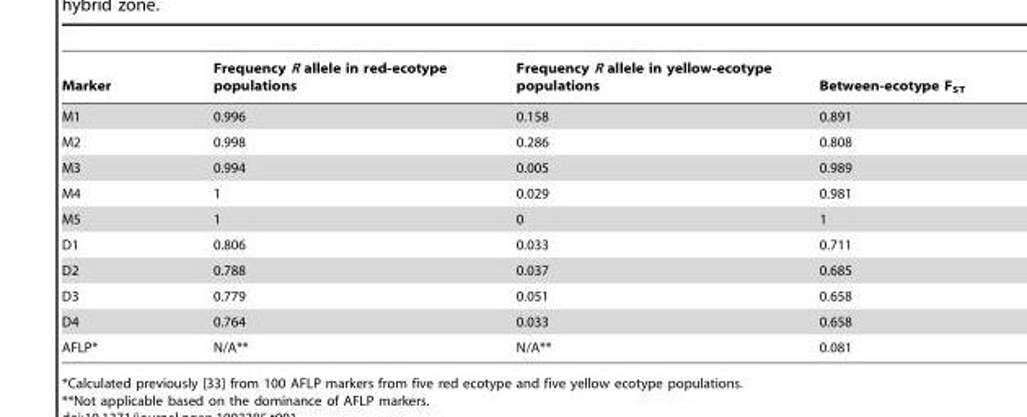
<table><thead><tr><td>Marker</td><td>Frequency R allele in red-ecotype populations</td><td>Frequency R allele in yellow-ecotype populations</td><td>Between-ecotype F<sub>ST</sub></td></tr></thead><tbody><tr><td>M1</td><td>0.996</td><td>0.158</td><td>0.891</td></tr><tr><td>M2</td><td>0.998</td><td>0.286</td><td>0.808</td></tr><tr><td>M3</td><td>0.994</td><td>0.005</td><td>0.989</td></tr><tr><td>M4</td><td>1</td><td>0.029</td><td>0.981</td></tr><tr><td>M5</td><td>1</td><td>0</td><td>1</td></tr><tr><td>D1</td><td>0.806</td><td>0.033</td><td>0.711</td></tr><tr><td>D2</td><td>0.788</td><td>0.037</td><td>0.685</td></tr><tr><td>D3</td><td>0.779</td><td>0.051</td><td>0.658</td></tr><tr><td>D4</td><td>0.764</td><td>0.033</td><td>0.658</td></tr><tr><td>AFLP*</td><td>N/A**</td><td>N/A**</td><td>0.081</td></tr></tbody></table>